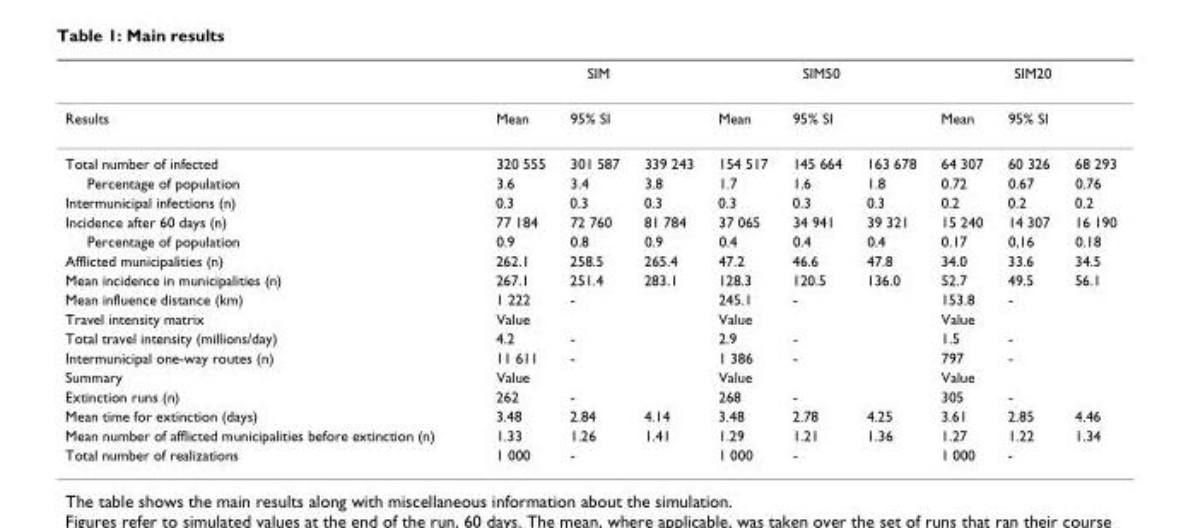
<table><thead><tr><td rowspan="3">Results Total number of infected</td><td colspan="3">SIM</td><td colspan="3">SIM50</td><td colspan="3">SIM20</td></tr><tr><td rowspan="2">Mean 320 555</td><td colspan="2">95% SI</td><td rowspan="2">Mean 154 517</td><td colspan="2">95% SI</td><td rowspan="2">Mean 64 307</td><td colspan="2">95% SI</td></tr><tr><td>301 587</td><td>339 243</td><td>145 664</td><td>163 678</td><td>60 326</td><td>68 293</td></tr></thead><tbody><tr><td>Percentage of population</td><td>3.6</td><td>3.4</td><td>3.8</td><td>1.7</td><td>1.6</td><td>1.8</td><td>0.72</td><td>0.67</td><td>0.76</td></tr><tr><td>Intermunicipal infections (n)</td><td>0.3</td><td>0.3</td><td>0.3</td><td>0.3</td><td>0.3</td><td>0.3</td><td>0.2</td><td>0.2</td><td>0.2</td></tr><tr><td>Incidence after 60 days (n)</td><td>77 184</td><td>72 760</td><td>81 784</td><td>37 065</td><td>34 941</td><td>39 321</td><td>15 240</td><td>14 307</td><td>16 190</td></tr><tr><td>Percentage of population</td><td>0.9</td><td>0.8</td><td>0.9</td><td>0.4</td><td>0.4</td><td>0.4</td><td>0.17</td><td>0,16</td><td>0.18</td></tr><tr><td>Afflicted municipalities (n)</td><td>262.1</td><td>258.5</td><td>265.4</td><td>47.2</td><td>46.6</td><td>47.8</td><td>34.0</td><td>33.6</td><td>34.5</td></tr><tr><td>Mean incidence in municipalities (n)</td><td>267.1</td><td>251.4</td><td>283.1</td><td>128.3</td><td>120.5</td><td>136.0</td><td>52.7</td><td>49.5</td><td>56.1</td></tr><tr><td>Mean influence distance (km)</td><td>1 222</td><td>-</td><td></td><td>245.1</td><td>-</td><td></td><td>153.8</td><td>-</td><td></td></tr><tr><td>Travel intensity matrix</td><td>Value</td><td></td><td></td><td>Value</td><td></td><td></td><td>Value</td><td></td><td></td></tr><tr><td>Total travel intensity (millions/day)</td><td>4.2</td><td>-</td><td></td><td>2.9</td><td>-</td><td></td><td>1.5</td><td>-</td><td></td></tr><tr><td>Intermunicipal one-way routes (n)</td><td>11 611</td><td>-</td><td></td><td>1 386</td><td>-</td><td></td><td>797</td><td>-</td><td></td></tr><tr><td>Summary</td><td>Value</td><td></td><td></td><td>Value</td><td></td><td></td><td>Value</td><td></td><td></td></tr><tr><td>Extinction runs (n)</td><td>262</td><td>-</td><td></td><td>268</td><td>-</td><td></td><td>305</td><td>-</td><td></td></tr><tr><td>Mean time for extinction (days)</td><td>3.48</td><td>2.84</td><td>4.14</td><td>3.48</td><td>2.78</td><td>4.25</td><td>3.61</td><td>2.85</td><td>4.46</td></tr><tr><td>Mean number of afflicted municipalities before extinction (n)</td><td>1.33</td><td>1.26</td><td>1.41</td><td>1.29</td><td>1.21</td><td>1.36</td><td>1.27</td><td>1.22</td><td>1.34</td></tr><tr><td>Total number of realizations</td><td>1 000</td><td>-</td><td></td><td>1 000</td><td>-</td><td></td><td>1 000</td><td>-</td><td></td></tr></tbody></table>